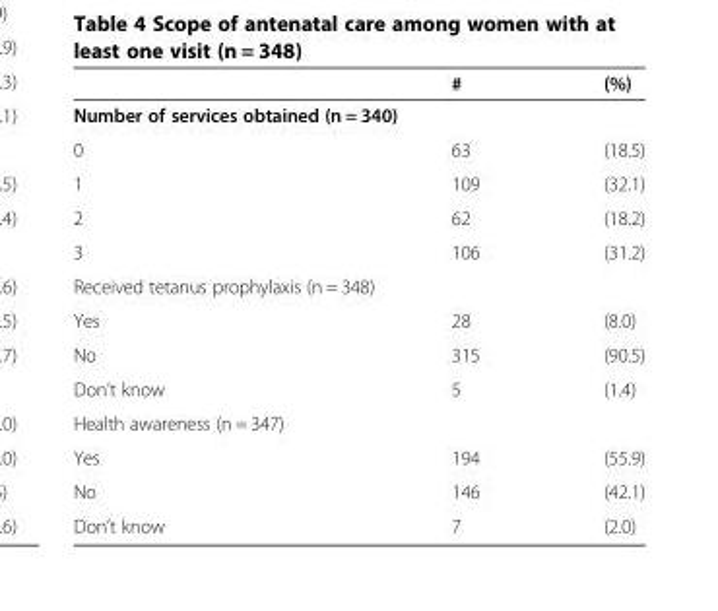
<table><thead><tr><td></td><td>#</td><td>(%)</td></tr></thead><tbody><tr><td colspan="3">Number of services obtained (n = 340)</td></tr><tr><td>0</td><td>63</td><td>(18.5)</td></tr><tr><td>1</td><td>109</td><td>(32.1)</td></tr><tr><td>2</td><td>62</td><td>(18.2)</td></tr><tr><td>3</td><td>106</td><td>(31.2)</td></tr><tr><td colspan="3">Received tetanus prophylaxis (n = 348)</td></tr><tr><td>Yes</td><td>28</td><td>(8.0)</td></tr><tr><td>No</td><td>315</td><td>(90.5)</td></tr><tr><td>Don’t know</td><td>5</td><td>(1.4)</td></tr><tr><td colspan="3">Health awareness (n = 347)</td></tr><tr><td>Yes</td><td>194</td><td>(55.9)</td></tr><tr><td>No</td><td>146</td><td>(42.1)</td></tr><tr><td>Don’t know</td><td>7</td><td>(2.0)</td></tr></tbody></table>